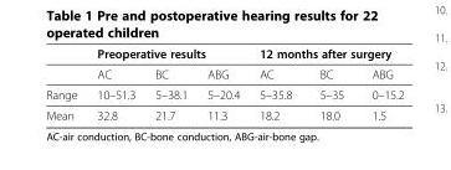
<table><thead><tr><td rowspan="2"></td><td colspan="3">Preoperative results</td><td colspan="3">12 months after surgery</td></tr><tr><td>AC</td><td>BC</td><td>ABG</td><td>AC</td><td>BC</td><td>ABG</td></tr></thead><tbody><tr><td>Range</td><td>10–51.3</td><td>5–38.1</td><td>5–20.4</td><td>5–35.8</td><td>5–35</td><td>0–15.2</td></tr><tr><td>Mean</td><td>32.8</td><td>21.7</td><td>11.3</td><td>18.2</td><td>18.0</td><td>1.5</td></tr></tbody></table>